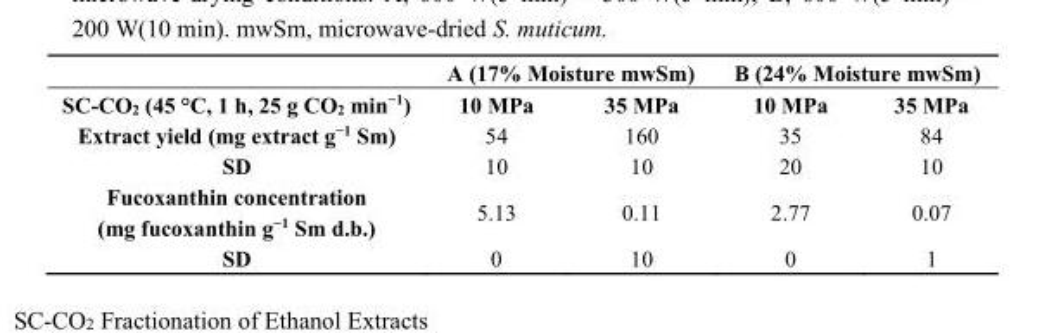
<table><thead><tr><td rowspan="2">SC-CO<sub>2</sub> (45 °C, 1 h, 25 g CO<sub>2</sub> min<sup>−1</sup>)</td><td colspan="2">A (17% Moisture mwSm)</td><td colspan="2">B (24% Moisture mwSm)</td></tr><tr><td>10 MPa</td><td>35 MPa</td><td>10 MPa</td><td>35 MPa</td></tr></thead><tbody><tr><td>Extract yield (mg extract g<sup>−1</sup> Sm)</td><td>54</td><td>160</td><td>35</td><td>84</td></tr><tr><td>SD</td><td>10</td><td>10</td><td>20</td><td>10</td></tr><tr><td>Fucoxanthin concentration (mg fucoxanthin g<sup>−1</sup> Sm d.b.)</td><td>5.13</td><td>0.11</td><td>2.77</td><td>0.07</td></tr><tr><td>SD</td><td>0</td><td>10</td><td>0</td><td>1</td></tr></tbody></table>